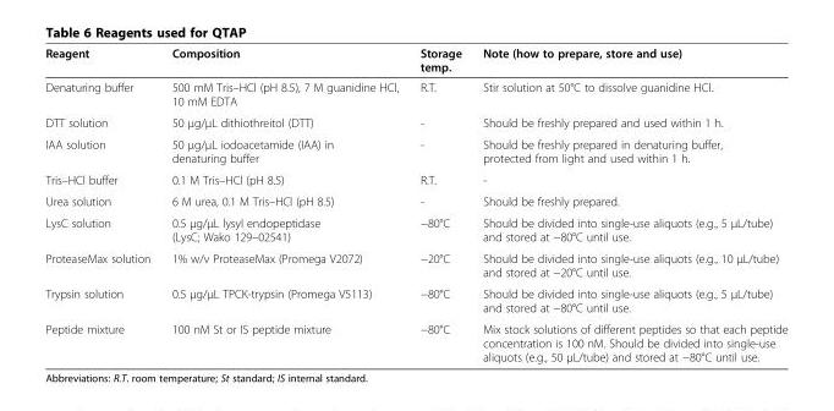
<table><thead><tr><td>Reagent</td><td>Composition</td><td>Storage temp.</td><td>Note (how to prepare, store and use)</td></tr></thead><tbody><tr><td>Denaturing buffer</td><td>500 mM Tris–HCl (pH 8.5), 7 M guanidine HCl, 10 mM EDTA</td><td>R.T.</td><td>Stir solution at 50°C to dissolve guanidine HCl.</td></tr><tr><td>DTT solution</td><td>50 μg/μL dithiothreitol (DTT)</td><td>-</td><td>Should be freshly prepared and used within 1 h.</td></tr><tr><td>IAA solution</td><td>50 μg/μL iodoacetamide (IAA) in denaturing buffer</td><td>-</td><td>Should be freshly prepared in denaturing buffer, protected from light and used within 1 h.</td></tr><tr><td>Tris–HCl buffer</td><td>0.1 M Tris–HCl (pH 8.5)</td><td>R.T.</td><td>-</td></tr><tr><td>Urea solution</td><td>6 M urea, 0.1 M Tris–HCl (pH 8.5)</td><td>-</td><td>Should be freshly prepared.</td></tr><tr><td>LysC solution</td><td>0.5 μg/μL lysyl endopeptidase (LysC; Wako 129–02541)</td><td>−80°C</td><td>Should be divided into single-use aliquots (e.g., 5 μL/tube) and stored at −80°C until use.</td></tr><tr><td>ProteaseMax solution</td><td>1% w/v ProteaseMax (Promega V2072)</td><td>−20°C</td><td>Should be divided into single-use aliquots (e.g., 10 μL/tube) and stored at −20°C until use.</td></tr><tr><td>Trypsin solution</td><td>0.5 μg/μL TPCK-trypsin (Promega V5113)</td><td>−80°C</td><td>Should be divided into single-use aliquots (e.g., 5 μL/tube) and stored at −80°C until use.</td></tr><tr><td>Peptide mixture</td><td>100 nM St or IS peptide mixture</td><td>−80°C</td><td>Mix stock solutions of different peptides so that each peptide concentration is 100 nM. Should be divided into single-use aliquots (e.g., 50 μL/tube) and stored at −80°C until use.</td></tr></tbody></table>